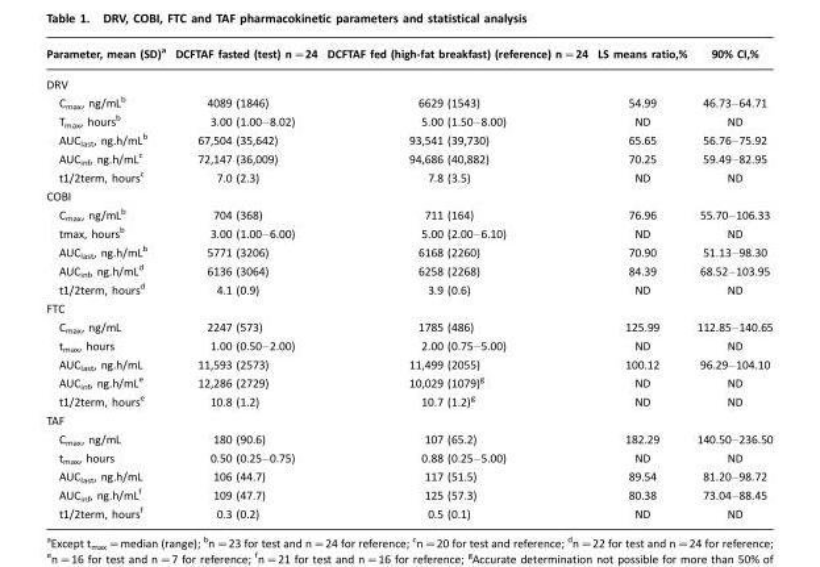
<table><thead><tr><td>Parameter, mean (SD)a</td><td>DCFTAF fasted (test) n=24</td><td>DCFTAF fed (high-fat breakfast) (reference) n=24</td><td>LS means ratio,%</td><td>90% CI,%</td></tr></thead><tbody><tr><td colspan="5">DRV</td></tr><tr><td>Cmax, ng/mLb</td><td>4089 (1846)</td><td>6629 (1543)</td><td>54.99</td><td>46.73–64.71</td></tr><tr><td>Tmax, hoursb</td><td>3.00 (1.00–8.02)</td><td>5.00 (1.50–8.00)</td><td>ND</td><td>ND</td></tr><tr><td>AUClast, ng.h/mLb</td><td>67,504 (35,642)</td><td>93,541 (39,730)</td><td>65.65</td><td>56.76–75.92</td></tr><tr><td>AUCinf, ng.h/mLc</td><td>72,147 (36,009)</td><td>94,686 (40,882)</td><td>70.25</td><td>59.49–82.95</td></tr><tr><td>t1/2term, hoursc</td><td>7.0 (2.3)</td><td>7.8 (3.5)</td><td>ND</td><td>ND</td></tr><tr><td colspan="5">COBI</td></tr><tr><td>Cmax, ng/mLb</td><td>704 (368)</td><td>711 (164)</td><td>76.96</td><td>55.70–106.33</td></tr><tr><td>tmax, hoursb</td><td>3.00 (1.00–6.00)</td><td>5.00 (2.00–6.10)</td><td>ND</td><td>ND</td></tr><tr><td>AUClast, ng.h/mLb</td><td>5771 (3206)</td><td>6168 (2260)</td><td>70.90</td><td>51.13–98.30</td></tr><tr><td>AUCinf, ng.h/mLd</td><td>6136 (3064)</td><td>6258 (2268)</td><td>84.39</td><td>68.52–103.95</td></tr><tr><td>t1/2term, hoursd</td><td>4.1 (0.9)</td><td>3.9 (0.6)</td><td>ND</td><td>ND</td></tr><tr><td colspan="5">FTC</td></tr><tr><td>Cmax, ng/mL</td><td>2247 (573)</td><td>1785 (486)</td><td>125.99</td><td>112.85–140.65</td></tr><tr><td>tmax, hours</td><td>1.00 (0.50–2.00)</td><td>2.00 (0.75–5.00)</td><td>ND</td><td>ND</td></tr><tr><td>AUClast, ng.h/mL</td><td>11,593 (2573)</td><td>11,499 (2055)</td><td>100.12</td><td>96.29–104.10</td></tr><tr><td>AUCinf, ng.h/mLe</td><td>12,286 (2729)</td><td>10,029 (1079)g</td><td>ND</td><td>ND</td></tr><tr><td>t1/2term, hourse</td><td>10.8 (1.2)</td><td>10.7 (1.2)g</td><td>ND</td><td>ND</td></tr><tr><td colspan="5">TAF</td></tr><tr><td>Cmax, ng/mL</td><td>180 (90.6)</td><td>107 (65.2)</td><td>182.29</td><td>140.50–236.50</td></tr><tr><td>tmax, hours</td><td>0.50 (0.25–0.75)</td><td>0.88 (0.25–5.00)</td><td>ND</td><td>ND</td></tr><tr><td>AUClast, ng.h/mL</td><td>106 (44.7)</td><td>117 (51.5)</td><td>89.54</td><td>81.20–98.72</td></tr><tr><td>AUCinf, ng.h/mLf</td><td>109 (47.7)</td><td>125 (57.3)</td><td>80.38</td><td>73.04–88.45</td></tr><tr><td>t1/2term, hoursf</td><td>0.3 (0.2)</td><td>0.5 (0.1)</td><td>ND</td><td>ND</td></tr></tbody></table>